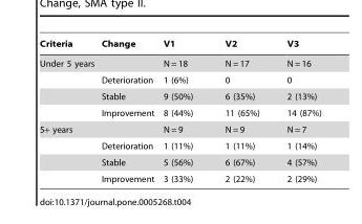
<table><thead><tr><td>Criteria</td><td>Change</td><td>V1</td><td>V2</td><td>V3</td></tr></thead><tbody><tr><td rowspan="4">Under 5 years</td><td></td><td>N = 18</td><td>N = 17</td><td>N = 16</td></tr><tr><td>Deterioration</td><td>1 (6%)</td><td>0</td><td>0</td></tr><tr><td>Stable</td><td>9 (50%)</td><td>6 (35%)</td><td>2 (13%)</td></tr><tr><td>Improvement</td><td>8 (44%)</td><td>11 (65%)</td><td>14 (87%)</td></tr><tr><td rowspan="4">5+ years</td><td></td><td>N = 9</td><td>N = 9</td><td>N = 7</td></tr><tr><td>Deterioration</td><td>1 (11%)</td><td>1 (11%)</td><td>1 (14%)</td></tr><tr><td>Stable</td><td>5 (56%)</td><td>6 (67%)</td><td>4 (57%)</td></tr><tr><td>Improvement</td><td>3 (33%)</td><td>2 (22%)</td><td>2 (29%)</td></tr></tbody></table>